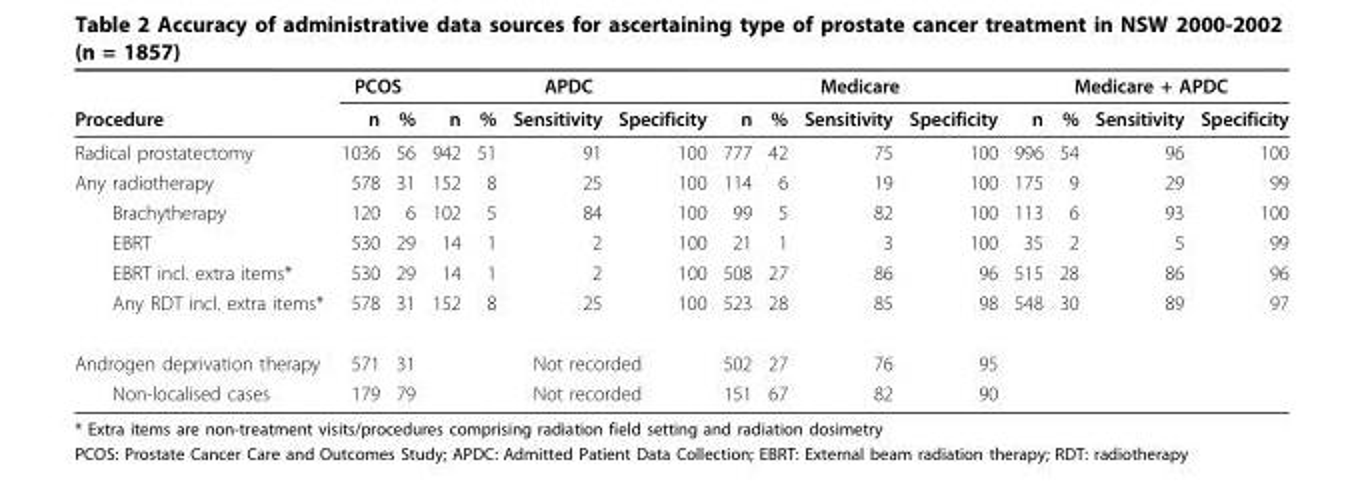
<table><thead><tr><td rowspan="2">Procedure</td><td colspan="2">PCOS</td><td colspan="4">APDC</td><td colspan="4">Medicare</td><td colspan="4">Medicare + APDC</td></tr><tr><td>n</td><td>%</td><td>n</td><td>%</td><td>Sensitivity</td><td>Specificity</td><td>n</td><td>%</td><td>Sensitivity</td><td>Specificity</td><td>n</td><td>%</td><td>Sensitivity</td><td>Specificity</td></tr></thead><tbody><tr><td>Radical prostatectomy</td><td>1036</td><td>56</td><td>942</td><td>51</td><td>91</td><td>100</td><td>777</td><td>42</td><td>75</td><td>100</td><td>996</td><td>54</td><td>96</td><td>100</td></tr><tr><td>Any radiotherapy</td><td>578</td><td>31</td><td>152</td><td>8</td><td>25</td><td>100</td><td>114</td><td>6</td><td>19</td><td>100</td><td>175</td><td>9</td><td>29</td><td>99</td></tr><tr><td>Brachytherapy</td><td>120</td><td>6</td><td>102</td><td>5</td><td>84</td><td>100</td><td>99</td><td>5</td><td>82</td><td>100</td><td>113</td><td>6</td><td>93</td><td>100</td></tr><tr><td>EBRT</td><td>530</td><td>29</td><td>14</td><td>1</td><td>2</td><td>100</td><td>21</td><td>1</td><td>3</td><td>100</td><td>35</td><td>2</td><td>5</td><td>99</td></tr><tr><td>EBRT incl. extra items*</td><td>530</td><td>29</td><td>14</td><td>1</td><td>2</td><td>100</td><td>508</td><td>27</td><td>86</td><td>96</td><td>515</td><td>28</td><td>86</td><td>96</td></tr><tr><td>Any RDT incl. extra items*</td><td>578</td><td>31</td><td>152</td><td>8</td><td>25</td><td>100</td><td>523</td><td>28</td><td>85</td><td>98</td><td>548</td><td>30</td><td>89</td><td>97</td></tr><tr><td>Androgen deprivation therapy</td><td>571</td><td>31</td><td colspan="4">Not recorded</td><td>502</td><td>27</td><td>76</td><td>95</td><td></td><td></td><td></td><td></td></tr><tr><td>Non-localised cases</td><td>179</td><td>79</td><td colspan="4">Not recorded</td><td>151</td><td>67</td><td>82</td><td>90</td><td></td><td></td><td></td><td></td></tr></tbody></table>